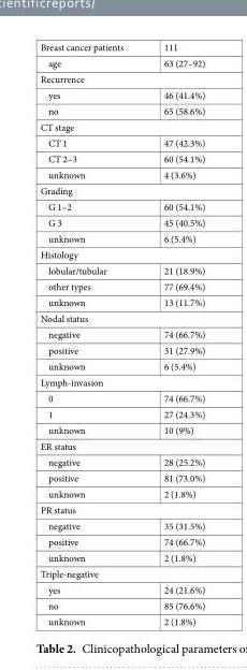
<table><tbody><tr><td>Breast cancer patients</td><td>111</td></tr><tr><td>age</td><td>63 (27–92)</td></tr><tr><td colspan="2">Recurrence</td></tr><tr><td>yes</td><td>46 (41.4%)</td></tr><tr><td>no</td><td>65 (58.6%)</td></tr><tr><td colspan="2">CT stage</td></tr><tr><td>CT 1</td><td>47 (42.3%)</td></tr><tr><td>CT 2–3</td><td>60 (54.1%)</td></tr><tr><td>unknown</td><td>4 (3.6%)</td></tr><tr><td colspan="2">Grading</td></tr><tr><td>G 1–2</td><td>60 (54.1%)</td></tr><tr><td>G 3</td><td>45 (40.5%)</td></tr><tr><td>unknown</td><td>6 (5.4%)</td></tr><tr><td colspan="2">Histology</td></tr><tr><td>lobular/tubular</td><td>21 (18.9%)</td></tr><tr><td>other types</td><td>77 (69.4%)</td></tr><tr><td>unknown</td><td>13 (11.7%)</td></tr><tr><td colspan="2">Nodal status</td></tr><tr><td>negative</td><td>74 (66.7%)</td></tr><tr><td>positive</td><td>31 (27.9%)</td></tr><tr><td>unknown</td><td>6 (5.4%)</td></tr><tr><td colspan="2">Lymph-invasion</td></tr><tr><td>0</td><td>74 (66.7%)</td></tr><tr><td>1</td><td>27 (24.3%)</td></tr><tr><td>unknown</td><td>10 (9%)</td></tr><tr><td colspan="2">ER status</td></tr><tr><td>negative</td><td>28 (25.2%)</td></tr><tr><td>positive</td><td>81 (73.0%)</td></tr><tr><td>unknown</td><td>2 (1.8%)</td></tr><tr><td colspan="2">PR status</td></tr><tr><td>negative</td><td>35 (31.5%)</td></tr><tr><td>positive</td><td>74 (66.7%)</td></tr><tr><td>unknown</td><td>2 (1.8%)</td></tr><tr><td colspan="2">Triple-negative</td></tr><tr><td>yes</td><td>24 (21.6%)</td></tr><tr><td>no</td><td>85 (76.6%)</td></tr><tr><td>unknown</td><td>2 (1.8%)</td></tr></tbody></table>